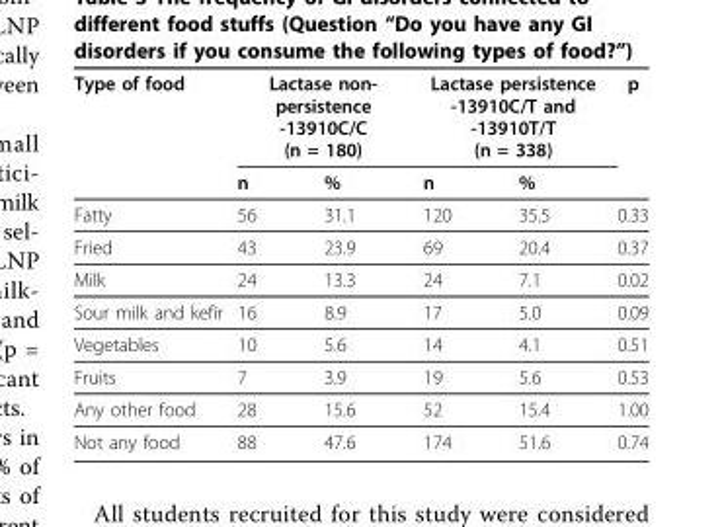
<table><thead><tr><td rowspan="2">Type of food</td><td colspan="2">Lactase non- persistence -13910C/C (n = 180)</td><td colspan="2">Lactase persistence -13910C/T and -13910T/T (n = 338)</td><td rowspan="2">p</td></tr><tr><td>n</td><td>%</td><td>n</td><td>%</td></tr></thead><tbody><tr><td>Fatty</td><td>56</td><td>31.1</td><td>120</td><td>35.5</td><td>0.33</td></tr><tr><td>Fried</td><td>43</td><td>23.9</td><td>69</td><td>20.4</td><td>0.37</td></tr><tr><td>Milk</td><td>24</td><td>13.3</td><td>24</td><td>7.1</td><td>0.02</td></tr><tr><td>Sour milk and kefir</td><td>16</td><td>8.9</td><td>17</td><td>5.0</td><td>0.09</td></tr><tr><td>Vegetables</td><td>10</td><td>5.6</td><td>14</td><td>4.1</td><td>0.51</td></tr><tr><td>Fruits</td><td>7</td><td>3.9</td><td>19</td><td>5.6</td><td>0.53</td></tr><tr><td>Any other food</td><td>28</td><td>15.6</td><td>52</td><td>15.4</td><td>1.00</td></tr><tr><td>Not any food</td><td>88</td><td>47.6</td><td>174</td><td>51.6</td><td>0.74</td></tr></tbody></table>